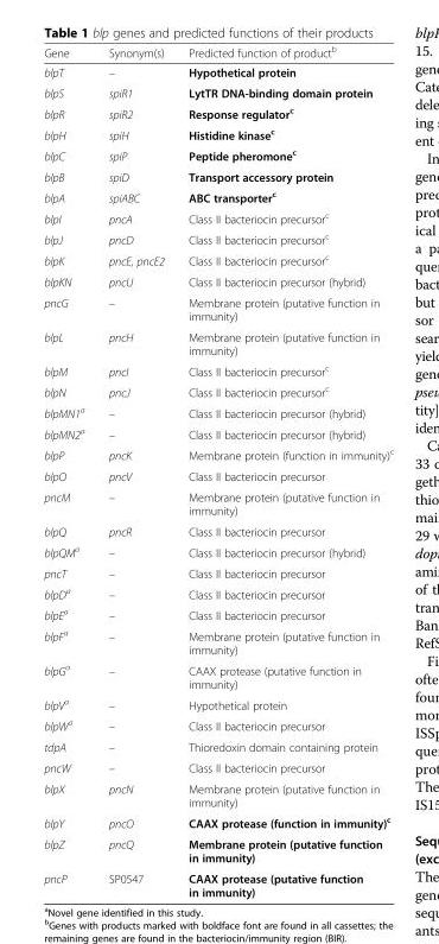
<table><thead><tr><td>Gene</td><td>Synonym(s)</td><td>Predicted function of product<sup>b</sup></td></tr></thead><tbody><tr><td>blpT</td><td>–</td><td>Hypothetical protein</td></tr><tr><td>blpS</td><td>spiR1</td><td>LytTR DNA-binding domain protein</td></tr><tr><td>blpR</td><td>spiR2</td><td>Response regulator<sup>c</sup></td></tr><tr><td>blpH</td><td>spiH</td><td>Histidine kinase<sup>c</sup></td></tr><tr><td>blpC</td><td>spiP</td><td>Peptide pheromone<sup>c</sup></td></tr><tr><td>blpB</td><td>spiD</td><td>Transport accessory protein</td></tr><tr><td>blpA</td><td>spiABC</td><td>ABC transporter<sup>c</sup></td></tr><tr><td>blpI</td><td>pncA</td><td>Class II bacteriocin precursor<sup>c</sup></td></tr><tr><td>blpJ</td><td>pncD</td><td>Class II bacteriocin precursor<sup>c</sup></td></tr><tr><td>blpK</td><td>pncE, pncE2</td><td>Class II bacteriocin precursor<sup>c</sup></td></tr><tr><td>blpKN</td><td>pncU</td><td>Class II bacteriocin precursor (hybrid)</td></tr><tr><td>pncG</td><td>–</td><td>Membrane protein (putative function in immunity)</td></tr><tr><td>blpL</td><td>pncH</td><td>Membrane protein (putative function in immunity)</td></tr><tr><td>blpM</td><td>pncI</td><td>Class II bacteriocin precursor<sup>c</sup></td></tr><tr><td>blpN</td><td>pncJ</td><td>Class II bacteriocin precursor<sup>c</sup></td></tr><tr><td>blpMN1<sup>a</sup></td><td>–</td><td>Class II bacteriocin precursor (hybrid)</td></tr><tr><td>blpMN2<sup>a</sup></td><td>–</td><td>Class II bacteriocin precursor (hybrid)</td></tr><tr><td>blpP</td><td>pncK</td><td>Membrane protein (function in immunity)<sup>c</sup></td></tr><tr><td>blpO</td><td>pncV</td><td>Class II bacteriocin precursor</td></tr><tr><td>pncM</td><td>–</td><td>Membrane protein (putative function in immunity)</td></tr><tr><td>blpQ</td><td>pncR</td><td>Class II bacteriocin precursor</td></tr><tr><td>blpQM<sup>a</sup></td><td>–</td><td>Class II bacteriocin precursor (hybrid)</td></tr><tr><td>pncT</td><td>–</td><td>Class II bacteriocin precursor</td></tr><tr><td>blpD<sup>a</sup></td><td>–</td><td>Class II bacteriocin precursor</td></tr><tr><td>blpE<sup>a</sup></td><td>–</td><td>Class II bacteriocin precursor</td></tr><tr><td>blpF<sup>a</sup></td><td>–</td><td>Membrane protein (putative function in immunity)</td></tr><tr><td>blpG<sup>a</sup></td><td>–</td><td>CAAX protease (putative function in immunity)</td></tr><tr><td>blpV<sup>a</sup></td><td>–</td><td>Hypothetical protein</td></tr><tr><td>blpW<sup>a</sup></td><td>–</td><td>Class II bacteriocin precursor</td></tr><tr><td>tdpA</td><td>–</td><td>Thioredoxin domain containing protein</td></tr><tr><td>pncW</td><td>–</td><td>Class II bacteriocin precursor</td></tr><tr><td>blpX</td><td>pncN</td><td>Membrane protein (putative function in immunity)</td></tr><tr><td>blpY</td><td>pncO</td><td>CAAX protease (function in immunity)<sup>c</sup></td></tr><tr><td>blpZ</td><td>pncQ</td><td>Membrane protein (putative function in immunity)</td></tr><tr><td>pncP</td><td>SP0547</td><td>CAAX protease (putative function in immunity)</td></tr></tbody></table>